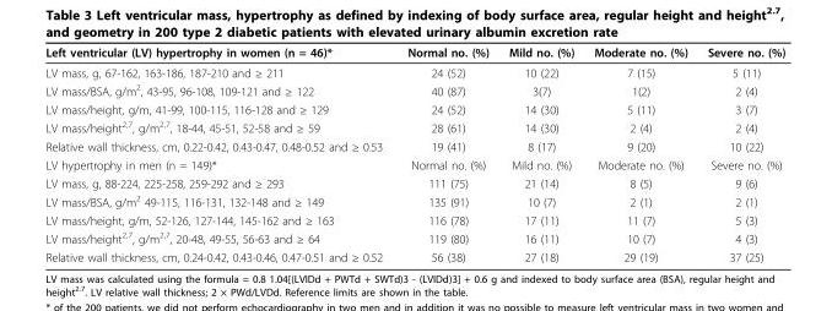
<table><thead><tr><td>Left ventricular (LV) hypertrophy in women (n = 46)*</td><td>Normal no. (%)</td><td>Mild no. (%)</td><td>Moderate no. (%)</td><td>Severe no. (%)</td></tr></thead><tbody><tr><td>LV mass, g, 67-162, 163-186, 187-210 and ≥ 211</td><td>24 (52)</td><td>10 (22)</td><td>7 (15)</td><td>5 (11)</td></tr><tr><td>LV mass/BSA, g/m<sup>2</sup>, 43-95, 96-108, 109-121 and ≥ 122</td><td>40 (87)</td><td>3(7)</td><td>1(2)</td><td>2 (4)</td></tr><tr><td>LV mass/height, g/m, 41-99, 100-115, 116-128 and ≥ 129</td><td>24 (52)</td><td>14 (30)</td><td>5 (11)</td><td>3 (7)</td></tr><tr><td>LV mass/height<sup>2,7</sup>, g/m<sup>2,7</sup>, 18-44, 45-51, 52-58 and ≥ 59</td><td>28 (61)</td><td>14 (30)</td><td>2 (4)</td><td>2 (4)</td></tr><tr><td>Relative wall thickness, cm, 0.22-0.42, 0.43-0.47, 0.48-0.52 and ≥ 0.53</td><td>19 (41)</td><td>8 (17)</td><td>9 (20)</td><td>10 (22)</td></tr><tr><td>LV hypertrophy in men (n = 149)*</td><td>Normal no. (%)</td><td>Mild no. (%)</td><td>Moderate no. (%)</td><td>Severe no. (%)</td></tr><tr><td>LV mass, g, 88-224, 225-258, 259-292 and ≥ 293</td><td>111 (75)</td><td>21 (14)</td><td>8 (5)</td><td>9 (6)</td></tr><tr><td>LV mass/BSA, g/m<sup>2</sup> 49-115, 116-131, 132-148 and ≥ 149</td><td>135 (91)</td><td>10 (7)</td><td>2 (1)</td><td>2 (1)</td></tr><tr><td>LV mass/height, g/m, 52-126, 127-144, 145-162 and ≥ 163</td><td>116 (78)</td><td>17 (11)</td><td>11 (7)</td><td>5 (3)</td></tr><tr><td>LV mass/height<sup>2,7</sup>, g/m<sup>2,7</sup>, 20-48, 49-55, 56-63 and ≥ 64</td><td>119 (80)</td><td>16 (11)</td><td>10 (7)</td><td>4 (3)</td></tr><tr><td>Relative wall thickness, cm, 0.24-0.42, 0.43-0.46, 0.47-0.51 and ≥ 0.52</td><td>56 (38)</td><td>27 (18)</td><td>29 (19)</td><td>37 (25)</td></tr></tbody></table>